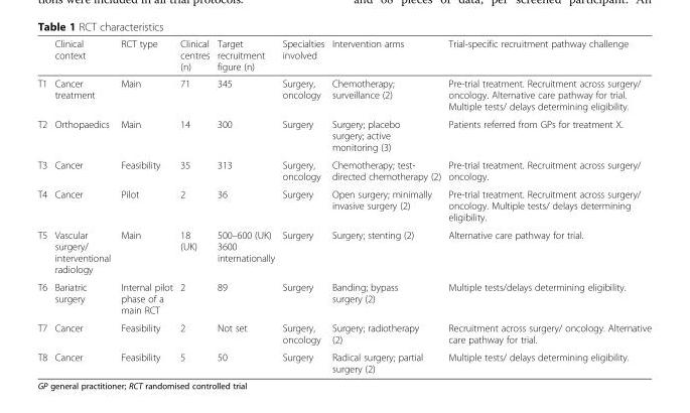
<table><thead><tr><td></td><td>Clinical context</td><td>RCT type</td><td>Clinical centres (n)</td><td>Target recruitment figure (n)</td><td>Specialties involved</td><td>Intervention arms</td><td>Trial-specific recruitment pathway challenge</td></tr></thead><tbody><tr><td>T1</td><td>Cancer treatment</td><td>Main</td><td>71</td><td>345</td><td>Surgery, oncology</td><td>Chemotherapy; surveillance (2)</td><td>Pre-trial treatment. Recruitment across surgery/ oncology. Alternative care pathway for trial. Multiple tests/ delays determining eligibility.</td></tr><tr><td>T2</td><td>Orthopaedics</td><td>Main</td><td>14</td><td>300</td><td>Surgery</td><td>Surgery; placebo surgery; active monitoring (3)</td><td>Patients referred from GPs for treatment X.</td></tr><tr><td>T3</td><td>Cancer</td><td>Feasibility</td><td>35</td><td>313</td><td>Surgery, oncology</td><td>Chemotherapy; test- directed chemotherapy (2)</td><td>Pre-trial treatment. Recruitment across surgery/ oncology.</td></tr><tr><td>T4</td><td>Cancer</td><td>Pilot</td><td>2</td><td>36</td><td>Surgery</td><td>Open surgery; minimally invasive surgery (2)</td><td>Pre-trial treatment. Recruitment across surgery/ oncology. Multiple tests/ delays determining eligibility.</td></tr><tr><td>T5</td><td>Vascular surgery/ interventional radiology</td><td>Main</td><td>18 (UK)</td><td>500–600 (UK) 3600 internationally</td><td>Surgery</td><td>Surgery; stenting (2)</td><td>Alternative care pathway for trial.</td></tr><tr><td>T6</td><td>Bariatric surgery</td><td>Internal pilot phase of a main RCT</td><td>2</td><td>89</td><td>Surgery</td><td>Banding; bypass surgery (2)</td><td>Multiple tests/delays determining eligibility.</td></tr><tr><td>T7</td><td>Cancer</td><td>Feasibility</td><td>2</td><td>Not set</td><td>Surgery, oncology</td><td>Surgery; radiotherapy (2)</td><td>Recruitment across surgery/ oncology. Alternative care pathway for trial.</td></tr><tr><td>T8</td><td>Cancer</td><td>Feasibility</td><td>5</td><td>50</td><td>Surgery</td><td>Radical surgery; partial surgery (2)</td><td>Multiple tests/ delays determining eligibility.</td></tr></tbody></table>